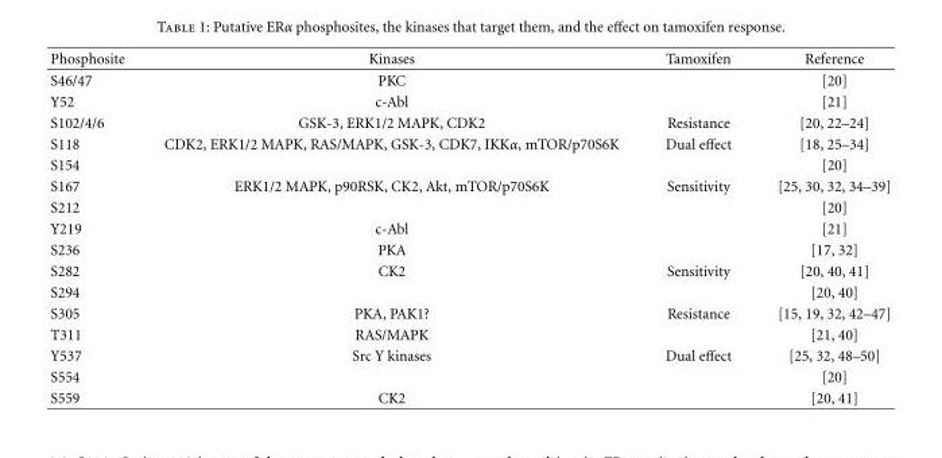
<table><thead><tr><td>Phosphosite</td><td>Kinases</td><td>Tamoxifen</td><td>Reference</td></tr></thead><tbody><tr><td>S46/47</td><td>PKC</td><td></td><td>[20]</td></tr><tr><td>Y52</td><td>c-Abl</td><td></td><td>[21]</td></tr><tr><td>S102/4/6</td><td>GSK-3, ERK1/2 MAPK, CDK2</td><td>Resistance</td><td>[20, 22–24]</td></tr><tr><td>S118</td><td>CDK2, ERK1/2 MAPK, RAS/MAPK, GSK-3, CDK7, IKKα, mTOR/p70S6K</td><td>Dual effect</td><td>[18, 25–34]</td></tr><tr><td>S154</td><td></td><td></td><td>[20]</td></tr><tr><td>S167</td><td>ERK1/2 MAPK, p90RSK, CK2, Akt, mTOR/p70S6K</td><td>Sensitivity</td><td>[25, 30, 32, 34–39]</td></tr><tr><td>S212</td><td></td><td></td><td>[20]</td></tr><tr><td>Y219</td><td>c-Abl</td><td></td><td>[21]</td></tr><tr><td>S236</td><td>PKA</td><td></td><td>[17, 32]</td></tr><tr><td>S282</td><td>CK2</td><td>Sensitivity</td><td>[20, 40, 41]</td></tr><tr><td>S294</td><td></td><td></td><td>[20, 40]</td></tr><tr><td>S305</td><td>PKA, PAK1?</td><td>Resistance</td><td>[15, 19, 32, 42–47]</td></tr><tr><td>T311</td><td>RAS/MAPK</td><td></td><td>[21, 40]</td></tr><tr><td>Y537</td><td>Src Y kinases</td><td>Dual effect</td><td>[25, 32, 48–50]</td></tr><tr><td>S554</td><td></td><td></td><td>[20]</td></tr><tr><td>S559</td><td>CK2</td><td></td><td>[20, 41]</td></tr></tbody></table>